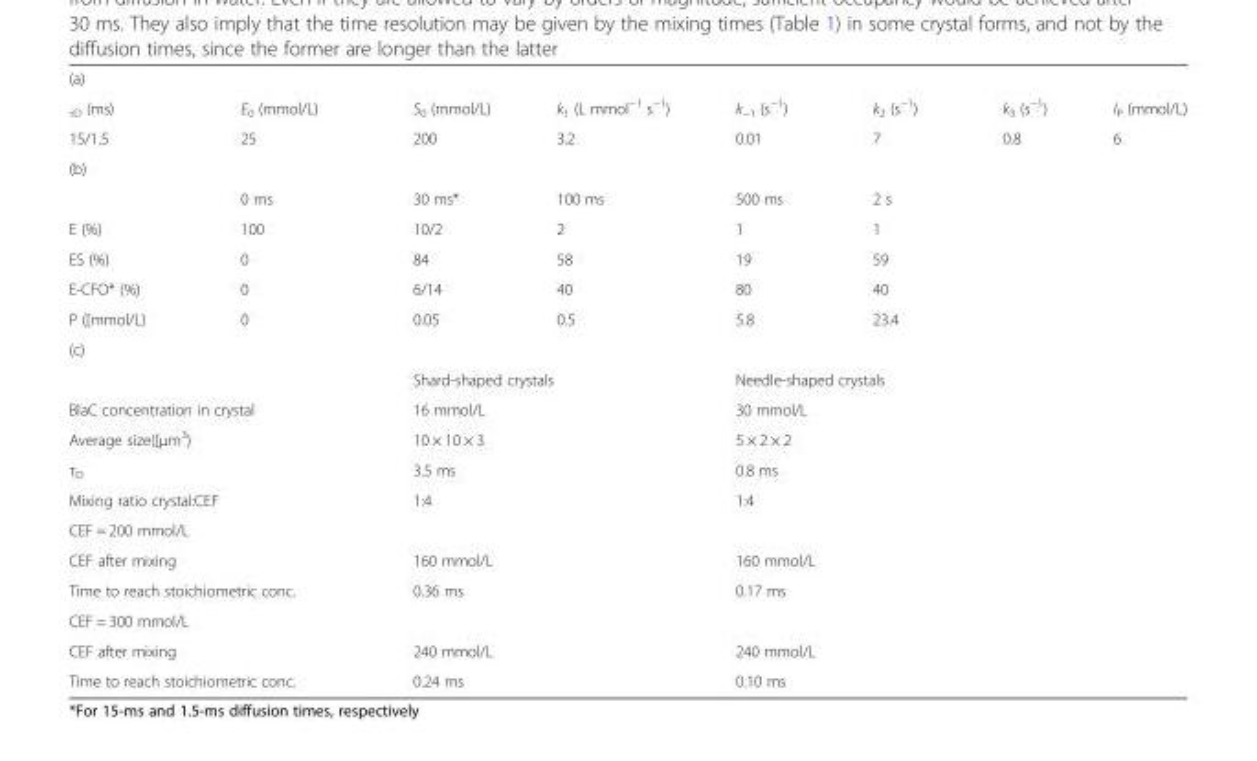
<table><tbody><tr><td colspan="8">(a)</td></tr><tr><td><sub>τD</sub> (ms)</td><td>E<sub>0</sub> (mmol/L)</td><td>S<sub>0</sub> (mmol/L)</td><td>k<sub>1</sub> (L mmol<sup>−1</sup> s<sup>−1</sup>)</td><td>k<sub>−1</sub> (s<sup>−1</sup>)</td><td>k<sub>2</sub> (s<sup>−1</sup>)</td><td>k<sub>3</sub> (s<sup>−1</sup>)</td><td>I<sub>P</sub> (mmol/L)</td></tr><tr><td>15/1.5</td><td>25</td><td>200</td><td>3.2</td><td>0.01</td><td>7</td><td>0.8</td><td>6</td></tr><tr><td colspan="8">(b)</td></tr><tr><td></td><td>0 ms</td><td>30 ms*</td><td>100 ms</td><td>500 ms</td><td>2 s</td><td colspan="2"></td></tr><tr><td>E (%)</td><td>100</td><td>10/2</td><td>2</td><td>1</td><td>1</td><td colspan="2"></td></tr><tr><td>ES (%)</td><td>0</td><td>84</td><td>58</td><td>19</td><td>59</td><td colspan="2"></td></tr><tr><td>E-CFO* (%)</td><td>0</td><td>6/14</td><td>40</td><td>80</td><td>40</td><td colspan="2"></td></tr><tr><td>P ([mmol/L)</td><td>0</td><td>0.05</td><td>0.5</td><td>5.8</td><td>23.4</td><td colspan="2"></td></tr><tr><td colspan="8">(c)</td></tr><tr><td colspan="2"></td><td colspan="2">Shard-shaped crystals</td><td colspan="2">Needle-shaped crystals</td><td colspan="2"></td></tr><tr><td colspan="2">BlaC concentration in crystal</td><td colspan="2">16 mmol/L</td><td colspan="2">30 mmol/L</td><td colspan="2"></td></tr><tr><td colspan="2">Average size([μm<sup>3</sup>)</td><td colspan="2">10 × 10 × 3</td><td colspan="2">5 × 2 × 2</td><td colspan="2"></td></tr><tr><td colspan="2">τ<sub>D</sub></td><td colspan="2">3.5 ms</td><td colspan="2">0.8 ms</td><td colspan="2"></td></tr><tr><td colspan="2">Mixing ratio crystal:CEF</td><td colspan="2">1:4</td><td colspan="2">1:4</td><td colspan="2"></td></tr><tr><td colspan="8">CEF = 200 mmol/L</td></tr><tr><td colspan="2">CEF after mixing</td><td colspan="2">160 mmol/L</td><td colspan="2">160 mmol/L</td><td colspan="2"></td></tr><tr><td colspan="2">Time to reach stoichiometric conc.</td><td colspan="2">0.36 ms</td><td colspan="2">0.17 ms</td><td colspan="2"></td></tr><tr><td colspan="8">CEF = 300 mmol/L</td></tr><tr><td colspan="2">CEF after mixing</td><td colspan="2">240 mmol/L</td><td colspan="2">240 mmol/L</td><td colspan="2"></td></tr><tr><td colspan="2">Time to reach stoichiometric conc.</td><td colspan="2">0.24 ms</td><td colspan="2">0.10 ms</td><td colspan="2"></td></tr></tbody></table>